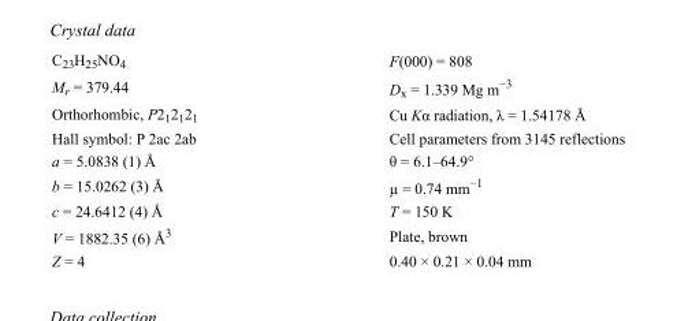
<table><tbody><tr><td>C<sub>23</sub>H<sub>25</sub>NO<sub>4</sub></td><td>F(000) = 808</td></tr><tr><td>M<sub>r</sub> = 379.44</td><td>D<sub>x</sub> = 1.339 Mg m<sup>−3</sup></td></tr><tr><td>Orthorhombic, P2<sub>1</sub>2<sub>1</sub>2<sub>1</sub></td><td>Cu Kα radiation, λ = 1.54178 Å</td></tr><tr><td>Hall symbol: P 2ac 2ab</td><td>Cell parameters from 3145 reflections</td></tr><tr><td>a = 5.0838 (1) Å</td><td>θ = 6.1–64.9°</td></tr><tr><td>b = 15.0262 (3) Å</td><td>µ = 0.74 mm<sup>−1</sup></td></tr><tr><td>c = 24.6412 (4) Å</td><td>T = 150 K</td></tr><tr><td>V = 1882.35 (6) Å<sup>3</sup></td><td>Plate, brown</td></tr><tr><td>Z = 4</td><td>0.40 × 0.21 × 0.04 mm</td></tr></tbody></table>